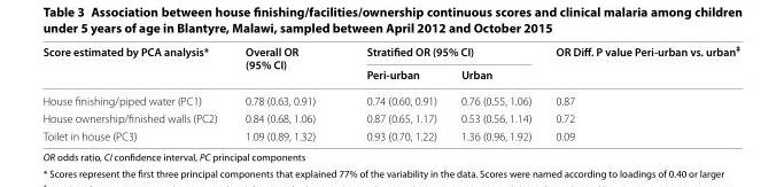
<table><thead><tr><td rowspan="2">Score estimated by PCA analysis*</td><td rowspan="2">Overall OR (95% CI)</td><td colspan="2">Stratified OR (95% CI)</td><td rowspan="2">OR Diff. P value Peri‑urban vs. urban<sup>‡</sup></td></tr><tr><td>Peri‑urban</td><td>Urban</td></tr></thead><tbody><tr><td>House finishing/piped water (PC1)</td><td>0.78 (0.63, 0.91)</td><td>0.74 (0.60, 0.91)</td><td>0.76 (0.55, 1.06)</td><td>0.87</td></tr><tr><td>House ownership/finished walls (PC2)</td><td>0.84 (0.68, 1.06)</td><td>0.87 (0.65, 1.17)</td><td>0.53 (0.56, 1.14)</td><td>0.72</td></tr><tr><td>Toilet in house (PC3)</td><td>1.09 (0.89, 1.32)</td><td>0.93 (0.70, 1.22)</td><td>1.36 (0.96, 1.92)</td><td>0.09</td></tr></tbody></table>